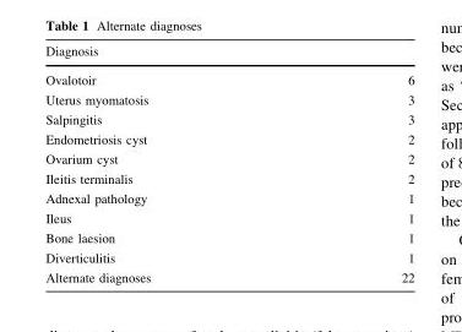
<table><thead><tr><td>Diagnosis</td><td></td></tr></thead><tbody><tr><td>Ovalotoir</td><td>6</td></tr><tr><td>Uterus myomatosis</td><td>3</td></tr><tr><td>Salpingitis</td><td>3</td></tr><tr><td>Endometriosis cyst</td><td>2</td></tr><tr><td>Ovarium cyst</td><td>2</td></tr><tr><td>Ileitis terminalis</td><td>2</td></tr><tr><td>Adnexal pathology</td><td>1</td></tr><tr><td>Ileus</td><td>1</td></tr><tr><td>Bone laesion</td><td>1</td></tr><tr><td>Diverticulitis</td><td>1</td></tr><tr><td>Alternate diagnoses</td><td>22</td></tr></tbody></table>